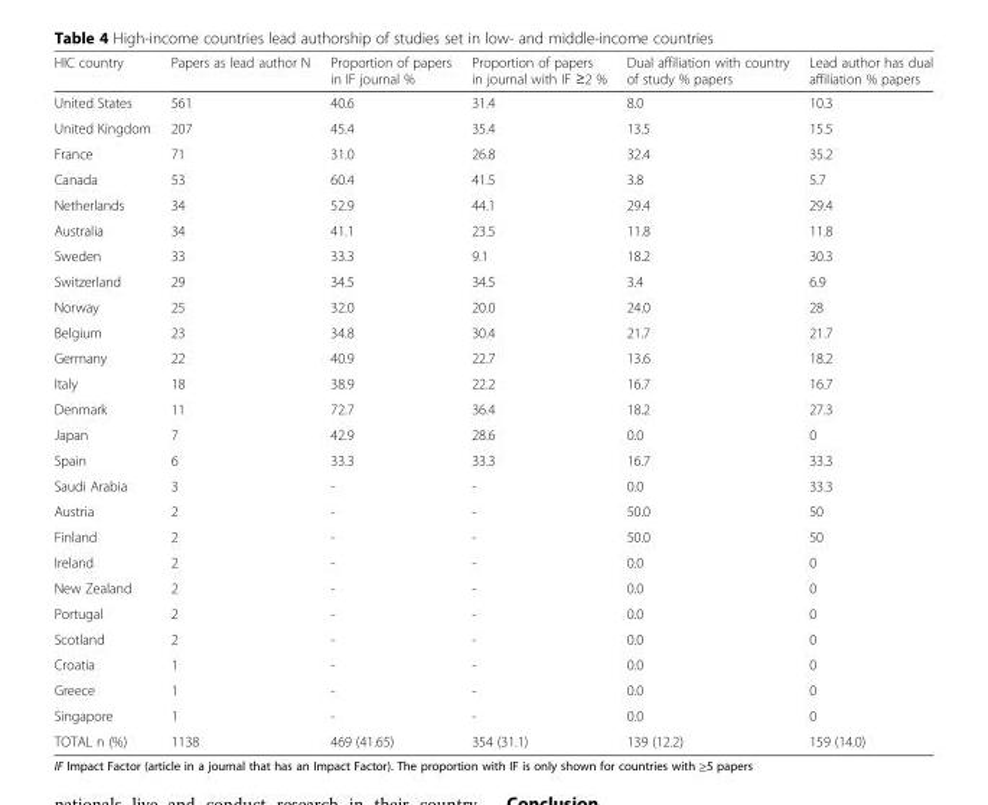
<table><thead><tr><td>HIC country</td><td>Papers as lead author N</td><td>Proportion of papers in IF journal %</td><td>Proportion of papers in journal with IF ≥2 %</td><td>Dual affiliation with country of study % papers</td><td>Lead author has dual affiliation % papers</td></tr></thead><tbody><tr><td>United States</td><td>561</td><td>40.6</td><td>31.4</td><td>8.0</td><td>10.3</td></tr><tr><td>United Kingdom</td><td>207</td><td>45.4</td><td>35.4</td><td>13.5</td><td>15.5</td></tr><tr><td>France</td><td>71</td><td>31.0</td><td>26.8</td><td>32.4</td><td>35.2</td></tr><tr><td>Canada</td><td>53</td><td>60.4</td><td>41.5</td><td>3.8</td><td>5.7</td></tr><tr><td>Netherlands</td><td>34</td><td>52.9</td><td>44.1</td><td>29.4</td><td>29.4</td></tr><tr><td>Australia</td><td>34</td><td>41.1</td><td>23.5</td><td>11.8</td><td>11.8</td></tr><tr><td>Sweden</td><td>33</td><td>33.3</td><td>9.1</td><td>18.2</td><td>30.3</td></tr><tr><td>Switzerland</td><td>29</td><td>34.5</td><td>34.5</td><td>3.4</td><td>6.9</td></tr><tr><td>Norway</td><td>25</td><td>32.0</td><td>20.0</td><td>24.0</td><td>28</td></tr><tr><td>Belgium</td><td>23</td><td>34.8</td><td>30.4</td><td>21.7</td><td>21.7</td></tr><tr><td>Germany</td><td>22</td><td>40.9</td><td>22.7</td><td>13.6</td><td>18.2</td></tr><tr><td>Italy</td><td>18</td><td>38.9</td><td>22.2</td><td>16.7</td><td>16.7</td></tr><tr><td>Denmark</td><td>11</td><td>72.7</td><td>36.4</td><td>18.2</td><td>27.3</td></tr><tr><td>Japan</td><td>7</td><td>42.9</td><td>28.6</td><td>0.0</td><td>0</td></tr><tr><td>Spain</td><td>6</td><td>33.3</td><td>33.3</td><td>16.7</td><td>33.3</td></tr><tr><td>Saudi Arabia</td><td>3</td><td>-</td><td>-</td><td>0.0</td><td>33.3</td></tr><tr><td>Austria</td><td>2</td><td>-</td><td>-</td><td>50.0</td><td>50</td></tr><tr><td>Finland</td><td>2</td><td>-</td><td>-</td><td>50.0</td><td>50</td></tr><tr><td>Ireland</td><td>2</td><td>-</td><td>-</td><td>0.0</td><td>0</td></tr><tr><td>New Zealand</td><td>2</td><td>-</td><td>-</td><td>0.0</td><td>0</td></tr><tr><td>Portugal</td><td>2</td><td>-</td><td>-</td><td>0.0</td><td>0</td></tr><tr><td>Scotland</td><td>2</td><td>-</td><td>-</td><td>0.0</td><td>0</td></tr><tr><td>Croatia</td><td>1</td><td>-</td><td>-</td><td>0.0</td><td>0</td></tr><tr><td>Greece</td><td>1</td><td>-</td><td>-</td><td>0.0</td><td>0</td></tr><tr><td>Singapore</td><td>1</td><td>-</td><td>-</td><td>0.0</td><td>0</td></tr><tr><td>TOTAL n (%)</td><td>1138</td><td>469 (41.65)</td><td>354 (31.1)</td><td>139 (12.2)</td><td>159 (14.0)</td></tr></tbody></table>